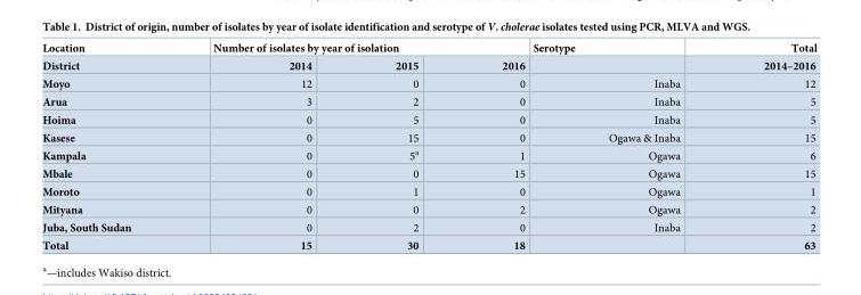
<table><thead><tr><td rowspan="2">Location District</td><td colspan="3">Number of isolates by year of isolation</td><td rowspan="2">Serotype</td><td rowspan="2">Total 2014–2016</td></tr><tr><td>2014</td><td>2015</td><td>2016</td></tr></thead><tbody><tr><td>Moyo</td><td>12</td><td>0</td><td>0</td><td>Inaba</td><td>12</td></tr><tr><td>Arua</td><td>3</td><td>2</td><td>0</td><td>Inaba</td><td>5</td></tr><tr><td>Hoima</td><td>0</td><td>5</td><td>0</td><td>Inaba</td><td>5</td></tr><tr><td>Kasese</td><td>0</td><td>15</td><td>0</td><td>Ogawa &amp; Inaba</td><td>15</td></tr><tr><td>Kampala</td><td>0</td><td>5<sup>a</sup></td><td>1</td><td>Ogawa</td><td>6</td></tr><tr><td>Mbale</td><td>0</td><td>0</td><td>15</td><td>Ogawa</td><td>15</td></tr><tr><td>Moroto</td><td>0</td><td>1</td><td>0</td><td>Ogawa</td><td>1</td></tr><tr><td>Mityana</td><td>0</td><td>0</td><td>2</td><td>Ogawa</td><td>2</td></tr><tr><td>Juba, South Sudan</td><td>0</td><td>2</td><td>0</td><td>Inaba</td><td>2</td></tr><tr><td>Total</td><td>15</td><td>30</td><td>18</td><td></td><td>63</td></tr></tbody></table>